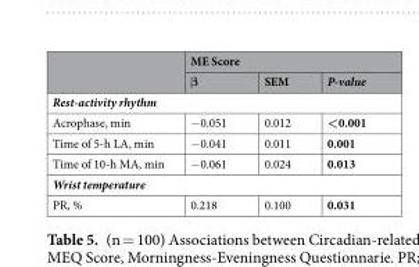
<table><thead><tr><td rowspan="2"></td><td colspan="3">ME Score</td></tr><tr><td>β</td><td>SEM</td><td>P-value</td></tr></thead><tbody><tr><td colspan="4">Rest-activity rhythm</td></tr><tr><td>Acrophase, min</td><td>−0.051</td><td>0.012</td><td>&lt;0.001</td></tr><tr><td>Time of 5-h LA, min</td><td>−0.041</td><td>0.011</td><td>0.001</td></tr><tr><td>Time of 10-h MA, min</td><td>−0.061</td><td>0.024</td><td>0.013</td></tr><tr><td colspan="4">Wrist temperature</td></tr><tr><td>PR, %</td><td>0.218</td><td>0.100</td><td>0.031</td></tr></tbody></table>